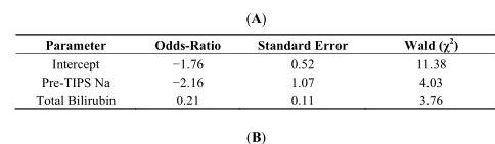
<table><thead><tr><td>Parameter</td><td>Odds-Ratio</td><td>Standard Error</td><td>Wald (χ<sup>2</sup>)</td></tr></thead><tbody><tr><td>Intercept</td><td>−1.76</td><td>0.52</td><td>11.38</td></tr><tr><td>Pre-TIPS Na</td><td>−2.16</td><td>1.07</td><td>4.03</td></tr><tr><td>Total Bilirubin</td><td>0.21</td><td>0.11</td><td>3.76</td></tr></tbody></table>